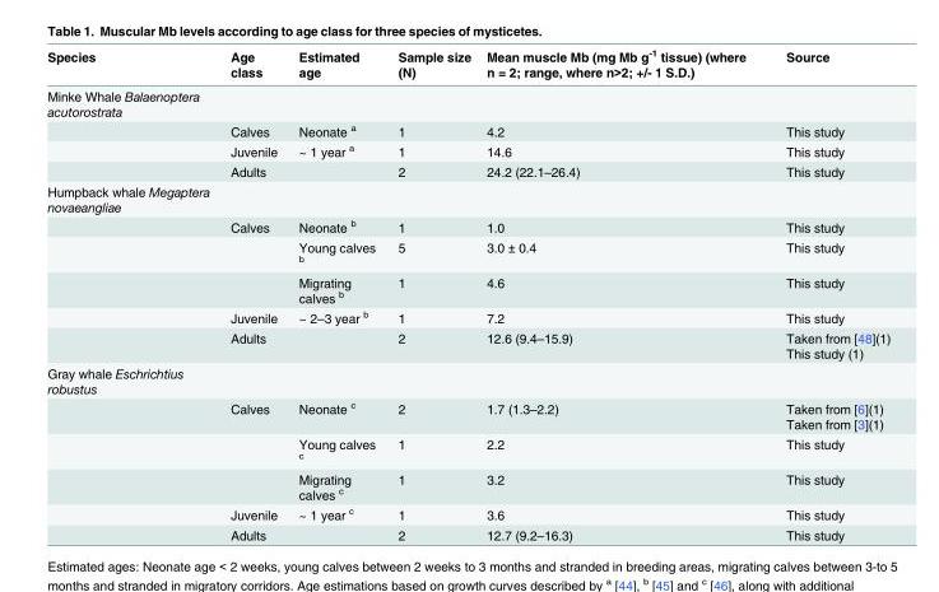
<table><thead><tr><td>Species</td><td>Age class</td><td>Estimated age</td><td>Sample size (N)</td><td>Mean muscle Mb (mg Mb g<sup>-1</sup> tissue) (where n = 2; range, where n&gt;2; +/- 1 S.D.)</td><td>Source</td></tr></thead><tbody><tr><td colspan="6">Minke Whale Balaenoptera acutorostrata</td></tr><tr><td></td><td>Calves</td><td>Neonate <sup>a</sup></td><td>1</td><td>4.2</td><td>This study</td></tr><tr><td></td><td>Juvenile</td><td>~ 1 year <sup>a</sup></td><td>1</td><td>14.6</td><td>This study</td></tr><tr><td></td><td>Adults</td><td></td><td>2</td><td>24.2 (22.1–26.4)</td><td>This study</td></tr><tr><td colspan="6">Humpback whale Megaptera novaeangliae</td></tr><tr><td></td><td>Calves</td><td>Neonate <sup>b</sup></td><td>1</td><td>1.0</td><td>This study</td></tr><tr><td></td><td></td><td>Young calves <sup>b</sup></td><td>5</td><td>3.0 ± 0.4</td><td>This study</td></tr><tr><td></td><td></td><td>Migrating calves <sup>b</sup></td><td>1</td><td>4.6</td><td>This study</td></tr><tr><td></td><td>Juvenile</td><td>~ 2–3 year <sup>b</sup></td><td>1</td><td>7.2</td><td>This study</td></tr><tr><td></td><td>Adults</td><td></td><td>2</td><td>12.6 (9.4–15.9)</td><td>Taken from [48](1) This study (1)</td></tr><tr><td colspan="6">Gray whale Eschrichtius robustus</td></tr><tr><td></td><td>Calves</td><td>Neonate <sup>c</sup></td><td>2</td><td>1.7 (1.3–2.2)</td><td>Taken from [6](1) Taken from [3](1)</td></tr><tr><td></td><td></td><td>Young calves <sup>c</sup></td><td>1</td><td>2.2</td><td>This study</td></tr><tr><td></td><td></td><td>Migrating calves <sup>c</sup></td><td>1</td><td>3.2</td><td>This study</td></tr><tr><td></td><td>Juvenile</td><td>~ 1 year <sup>c</sup></td><td>1</td><td>3.6</td><td>This study</td></tr><tr><td></td><td>Adults</td><td></td><td>2</td><td>12.7 (9.2–16.3)</td><td>This study</td></tr></tbody></table>